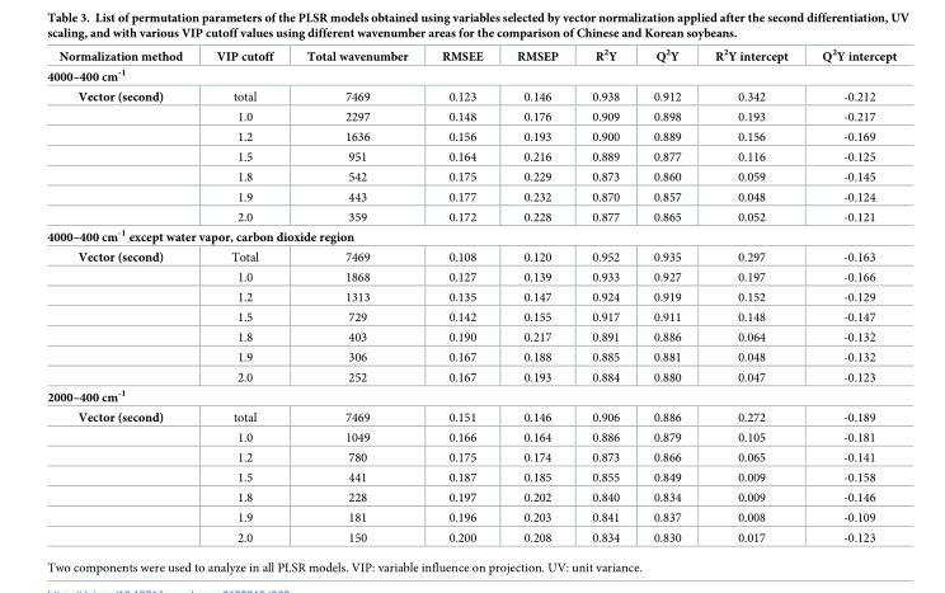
<table><thead><tr><td>Normalization method</td><td>VIP cutoff</td><td>Total wavenumber</td><td>RMSEE</td><td>RMSEP</td><td>R<sup>2</sup>Y</td><td>Q<sup>2</sup>Y</td><td>R<sup>2</sup>Y intercept</td><td>Q<sup>2</sup>Y intercept</td></tr></thead><tbody><tr><td colspan="9">4000–400 cm<sup>-1</sup></td></tr><tr><td rowspan="7">Vector (second)</td><td>total</td><td>7469</td><td>0.123</td><td>0.146</td><td>0.938</td><td>0.912</td><td>0.342</td><td>-0.212</td></tr><tr><td>1.0</td><td>2297</td><td>0.148</td><td>0.176</td><td>0.909</td><td>0.898</td><td>0.193</td><td>-0.217</td></tr><tr><td>1.2</td><td>1636</td><td>0.156</td><td>0.193</td><td>0.900</td><td>0.889</td><td>0.156</td><td>-0.169</td></tr><tr><td>1.5</td><td>951</td><td>0.164</td><td>0.216</td><td>0.889</td><td>0.877</td><td>0.116</td><td>-0.125</td></tr><tr><td>1.8</td><td>542</td><td>0.175</td><td>0.229</td><td>0.873</td><td>0.860</td><td>0.059</td><td>-0.145</td></tr><tr><td>1.9</td><td>443</td><td>0.177</td><td>0.232</td><td>0.870</td><td>0.857</td><td>0.048</td><td>-0.124</td></tr><tr><td>2.0</td><td>359</td><td>0.172</td><td>0.228</td><td>0.877</td><td>0.865</td><td>0.052</td><td>-0.121</td></tr><tr><td colspan="9">4000–400 cm<sup>-1</sup> except water vapor, carbon dioxide region</td></tr><tr><td rowspan="7">Vector (second)</td><td>Total</td><td>7469</td><td>0.108</td><td>0.120</td><td>0.952</td><td>0.935</td><td>0.297</td><td>-0.163</td></tr><tr><td>1.0</td><td>1868</td><td>0.127</td><td>0.139</td><td>0.933</td><td>0.927</td><td>0.197</td><td>-0.166</td></tr><tr><td>1.2</td><td>1313</td><td>0.135</td><td>0.147</td><td>0.924</td><td>0.919</td><td>0.152</td><td>-0.129</td></tr><tr><td>1.5</td><td>729</td><td>0.142</td><td>0.155</td><td>0.917</td><td>0.911</td><td>0.148</td><td>-0.147</td></tr><tr><td>1.8</td><td>403</td><td>0.190</td><td>0.217</td><td>0.891</td><td>0.886</td><td>0.064</td><td>-0.132</td></tr><tr><td>1.9</td><td>306</td><td>0.167</td><td>0.188</td><td>0.885</td><td>0.881</td><td>0.048</td><td>-0.132</td></tr><tr><td>2.0</td><td>252</td><td>0.167</td><td>0.193</td><td>0.884</td><td>0.880</td><td>0.047</td><td>-0.123</td></tr><tr><td colspan="9">2000–400 cm<sup>-1</sup></td></tr><tr><td rowspan="7">Vector (second)</td><td>total</td><td>7469</td><td>0.151</td><td>0.146</td><td>0.906</td><td>0.886</td><td>0.272</td><td>-0.189</td></tr><tr><td>1.0</td><td>1049</td><td>0.166</td><td>0.164</td><td>0.886</td><td>0.879</td><td>0.105</td><td>-0.181</td></tr><tr><td>1.2</td><td>780</td><td>0.175</td><td>0.174</td><td>0.873</td><td>0.866</td><td>0.065</td><td>-0.141</td></tr><tr><td>1.5</td><td>441</td><td>0.187</td><td>0.185</td><td>0.855</td><td>0.849</td><td>0.009</td><td>-0.158</td></tr><tr><td>1.8</td><td>228</td><td>0.197</td><td>0.202</td><td>0.840</td><td>0.834</td><td>0.009</td><td>-0.146</td></tr><tr><td>1.9</td><td>181</td><td>0.196</td><td>0.203</td><td>0.841</td><td>0.837</td><td>0.008</td><td>-0.109</td></tr><tr><td>2.0</td><td>150</td><td>0.200</td><td>0.208</td><td>0.834</td><td>0.830</td><td>0.017</td><td>-0.123</td></tr></tbody></table>